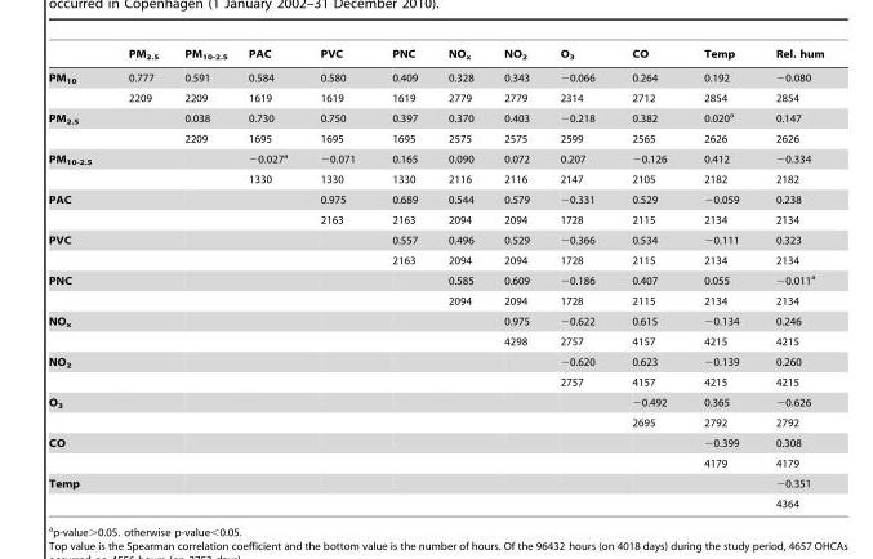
<table><thead><tr><td></td><td>PM<sub>2.5</sub></td><td>PM<sub>10-2.5</sub></td><td>PAC</td><td>PVC</td><td>PNC</td><td>NO<sub>x</sub></td><td>NO<sub>2</sub></td><td>O<sub>3</sub></td><td>CO</td><td>Temp</td><td>Rel. hum</td></tr></thead><tbody><tr><td rowspan="2">PM<sub>10</sub></td><td>0.777</td><td>0.591</td><td>0.584</td><td>0.580</td><td>0.409</td><td>0.328</td><td>0.343</td><td>−0.066</td><td>0.264</td><td>0.192</td><td>−0.080</td></tr><tr><td>2209</td><td>2209</td><td>1619</td><td>1619</td><td>1619</td><td>2779</td><td>2779</td><td>2314</td><td>2712</td><td>2854</td><td>2854</td></tr><tr><td rowspan="2">PM<sub>2.5</sub></td><td></td><td>0.038</td><td>0.730</td><td>0.750</td><td>0.397</td><td>0.370</td><td>0.403</td><td>−0.218</td><td>0.382</td><td>0.020<sup>a</sup></td><td>0.147</td></tr><tr><td></td><td>2209</td><td>1695</td><td>1695</td><td>1695</td><td>2575</td><td>2575</td><td>2599</td><td>2565</td><td>2626</td><td>2626</td></tr><tr><td rowspan="2">PM<sub>10-2.5</sub></td><td></td><td></td><td>−0.027<sup>a</sup></td><td>−0.071</td><td>0.165</td><td>0.090</td><td>0.072</td><td>0.207</td><td>−0.126</td><td>0.412</td><td>−0.334</td></tr><tr><td></td><td></td><td>1330</td><td>1330</td><td>1330</td><td>2116</td><td>2116</td><td>2147</td><td>2105</td><td>2182</td><td>2182</td></tr><tr><td rowspan="2">PAC</td><td></td><td></td><td></td><td>0.975</td><td>0.689</td><td>0.544</td><td>0.579</td><td>−0.331</td><td>0.529</td><td>−0.059</td><td>0.238</td></tr><tr><td></td><td></td><td></td><td>2163</td><td>2163</td><td>2094</td><td>2094</td><td>1728</td><td>2115</td><td>2134</td><td>2134</td></tr><tr><td rowspan="2">PVC</td><td></td><td></td><td></td><td></td><td>0.557</td><td>0.496</td><td>0.529</td><td>−0.366</td><td>0.534</td><td>−0.111</td><td>0.323</td></tr><tr><td></td><td></td><td></td><td></td><td>2163</td><td>2094</td><td>2094</td><td>1728</td><td>2115</td><td>2134</td><td>2134</td></tr><tr><td rowspan="2">PNC</td><td></td><td></td><td></td><td></td><td></td><td>0.585</td><td>0.609</td><td>−0.186</td><td>0.407</td><td>0.055</td><td>−0.011<sup>a</sup></td></tr><tr><td></td><td></td><td></td><td></td><td></td><td>2094</td><td>2094</td><td>1728</td><td>2115</td><td>2134</td><td>2134</td></tr><tr><td rowspan="2">NO<sub>x</sub></td><td></td><td></td><td></td><td></td><td></td><td></td><td>0.975</td><td>−0.622</td><td>0.615</td><td>−0.134</td><td>0.246</td></tr><tr><td></td><td></td><td></td><td></td><td></td><td></td><td>4298</td><td>2757</td><td>4157</td><td>4215</td><td>4215</td></tr><tr><td rowspan="2">NO<sub>2</sub></td><td></td><td></td><td></td><td></td><td></td><td></td><td></td><td>−0.620</td><td>0.623</td><td>−0.139</td><td>0.260</td></tr><tr><td></td><td></td><td></td><td></td><td></td><td></td><td></td><td>2757</td><td>4157</td><td>4215</td><td>4215</td></tr><tr><td rowspan="2">O<sub>3</sub></td><td></td><td></td><td></td><td></td><td></td><td></td><td></td><td></td><td>−0.492</td><td>0.365</td><td>−0.626</td></tr><tr><td></td><td></td><td></td><td></td><td></td><td></td><td></td><td></td><td>2695</td><td>2792</td><td>2792</td></tr><tr><td rowspan="2">CO</td><td></td><td></td><td></td><td></td><td></td><td></td><td></td><td></td><td></td><td>−0.399</td><td>0.308</td></tr><tr><td></td><td></td><td></td><td></td><td></td><td></td><td></td><td></td><td></td><td>4179</td><td>4179</td></tr><tr><td rowspan="2">Temp</td><td></td><td></td><td></td><td></td><td></td><td></td><td></td><td></td><td></td><td></td><td>−0.351</td></tr><tr><td></td><td></td><td></td><td></td><td></td><td></td><td></td><td></td><td></td><td></td><td>4364</td></tr></tbody></table>